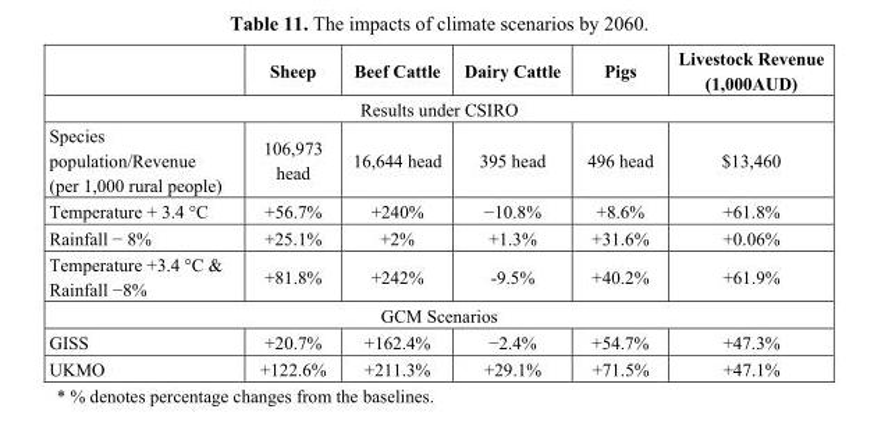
<table><thead><tr><td></td><td>Sheep</td><td>Beef Cattle</td><td>Dairy Cattle</td><td>Pigs</td><td>Livestock Revenue (1,000AUD)</td></tr></thead><tbody><tr><td colspan="6">Results under CSIRO</td></tr><tr><td>Species population/Revenue (per 1,000 rural people)</td><td>106,973 head</td><td>16,644 head</td><td>395 head</td><td>496 head</td><td>$13,460</td></tr><tr><td>Temperature + 3.4 °C</td><td>+56.7%</td><td>+240%</td><td>−10.8%</td><td>+8.6%</td><td>+61.8%</td></tr><tr><td>Rainfall − 8%</td><td>+25.1%</td><td>+2%</td><td>+1.3%</td><td>+31.6%</td><td>+0.06%</td></tr><tr><td>Temperature +3.4 °C &amp; Rainfall −8%</td><td>+81.8%</td><td>+242%</td><td>-9.5%</td><td>+40.2%</td><td>+61.9%</td></tr><tr><td colspan="6">GCM Scenarios</td></tr><tr><td>GISS</td><td>+20.7%</td><td>+162.4%</td><td>−2.4%</td><td>+54.7%</td><td>+47.3%</td></tr><tr><td>UKMO</td><td>+122.6%</td><td>+211.3%</td><td>+29.1%</td><td>+71.5%</td><td>+47.1%</td></tr></tbody></table>